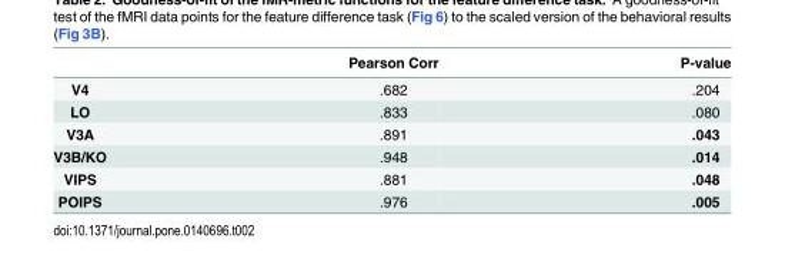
<table><thead><tr><td></td><td>Pearson Corr</td><td>P-value</td></tr></thead><tbody><tr><td>V4</td><td>.682</td><td>.204</td></tr><tr><td>LO</td><td>.833</td><td>.080</td></tr><tr><td>V3A</td><td>.891</td><td>.043</td></tr><tr><td>V3B/KO</td><td>.948</td><td>.014</td></tr><tr><td>VIPS</td><td>.881</td><td>.048</td></tr><tr><td>POIPS</td><td>.976</td><td>.005</td></tr></tbody></table>